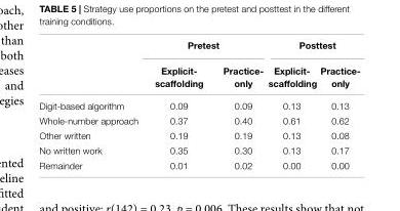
<table><thead><tr><td rowspan="2"></td><td colspan="2">Pretest</td><td colspan="2">Posttest</td></tr><tr><td>Explicit- scaffolding</td><td>Practice- only</td><td>Explicit- scaffolding</td><td>Practice- only</td></tr></thead><tbody><tr><td>Digit-based algorithm</td><td>0.09</td><td>0.09</td><td>0.13</td><td>0.13</td></tr><tr><td>Whole-number approach</td><td>0.37</td><td>0.40</td><td>0.61</td><td>0.62</td></tr><tr><td>Other written</td><td>0.19</td><td>0.19</td><td>0.13</td><td>0.08</td></tr><tr><td>No written work</td><td>0.35</td><td>0.30</td><td>0.13</td><td>0.17</td></tr><tr><td>Remainder</td><td>0.01</td><td>0.02</td><td>0.00</td><td>0.00</td></tr></tbody></table>